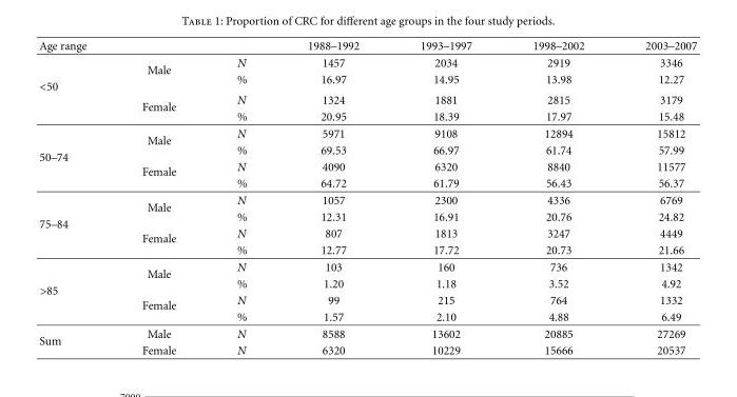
<table><thead><tr><td>Age range</td><td></td><td></td><td>1988–1992</td><td>1993–1997</td><td>1998–2002</td><td>2003–2007</td></tr></thead><tbody><tr><td rowspan="4">&lt;50</td><td rowspan="2">Male</td><td>N</td><td>1457</td><td>2034</td><td>2919</td><td>3346</td></tr><tr><td>%</td><td>16.97</td><td>14.95</td><td>13.98</td><td>12.27</td></tr><tr><td rowspan="2">Female</td><td>N</td><td>1324</td><td>1881</td><td>2815</td><td>3179</td></tr><tr><td>%</td><td>20.95</td><td>18.39</td><td>17.97</td><td>15.48</td></tr><tr><td rowspan="4">50–74</td><td rowspan="2">Male</td><td>N</td><td>5971</td><td>9108</td><td>12894</td><td>15812</td></tr><tr><td>%</td><td>69.53</td><td>66.97</td><td>61.74</td><td>57.99</td></tr><tr><td rowspan="2">Female</td><td>N</td><td>4090</td><td>6320</td><td>8840</td><td>11577</td></tr><tr><td>%</td><td>64.72</td><td>61.79</td><td>56.43</td><td>56.37</td></tr><tr><td rowspan="4">75–84</td><td rowspan="2">Male</td><td>N</td><td>1057</td><td>2300</td><td>4336</td><td>6769</td></tr><tr><td>%</td><td>12.31</td><td>16.91</td><td>20.76</td><td>24.82</td></tr><tr><td rowspan="2">Female</td><td>N</td><td>807</td><td>1813</td><td>3247</td><td>4449</td></tr><tr><td>%</td><td>12.77</td><td>17.72</td><td>20.73</td><td>21.66</td></tr><tr><td rowspan="4">&gt;85</td><td rowspan="2">Male</td><td>N</td><td>103</td><td>160</td><td>736</td><td>1342</td></tr><tr><td>%</td><td>1.20</td><td>1.18</td><td>3.52</td><td>4.92</td></tr><tr><td rowspan="2">Female</td><td>N</td><td>99</td><td>215</td><td>764</td><td>1332</td></tr><tr><td>%</td><td>1.57</td><td>2.10</td><td>4.88</td><td>6.49</td></tr><tr><td rowspan="2">Sum</td><td>Male</td><td>N</td><td>8588</td><td>13602</td><td>20885</td><td>27269</td></tr><tr><td>Female</td><td>N</td><td>6320</td><td>10229</td><td>15666</td><td>20537</td></tr></tbody></table>